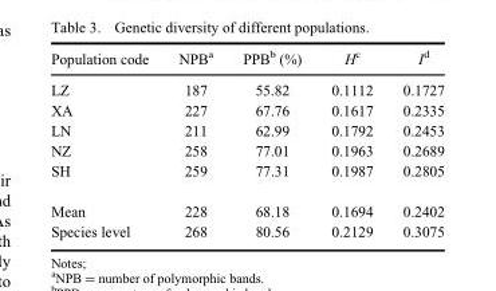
<table><thead><tr><td>Population code</td><td>NPB<sup>a</sup></td><td>PPB<sup>b</sup> (%)</td><td>H<sup>c</sup></td><td>I<sup>d</sup></td></tr></thead><tbody><tr><td>LZ</td><td>187</td><td>55.82</td><td>0.1112</td><td>0.1727</td></tr><tr><td>XA</td><td>227</td><td>67.76</td><td>0.1617</td><td>0.2335</td></tr><tr><td>LN</td><td>211</td><td>62.99</td><td>0.1792</td><td>0.2453</td></tr><tr><td>NZ</td><td>258</td><td>77.01</td><td>0.1963</td><td>0.2689</td></tr><tr><td>SH</td><td>259</td><td>77.31</td><td>0.1987</td><td>0.2805</td></tr><tr><td>Mean</td><td>228</td><td>68.18</td><td>0.1694</td><td>0.2402</td></tr><tr><td>Species level</td><td>268</td><td>80.56</td><td>0.2129</td><td>0.3075</td></tr></tbody></table>